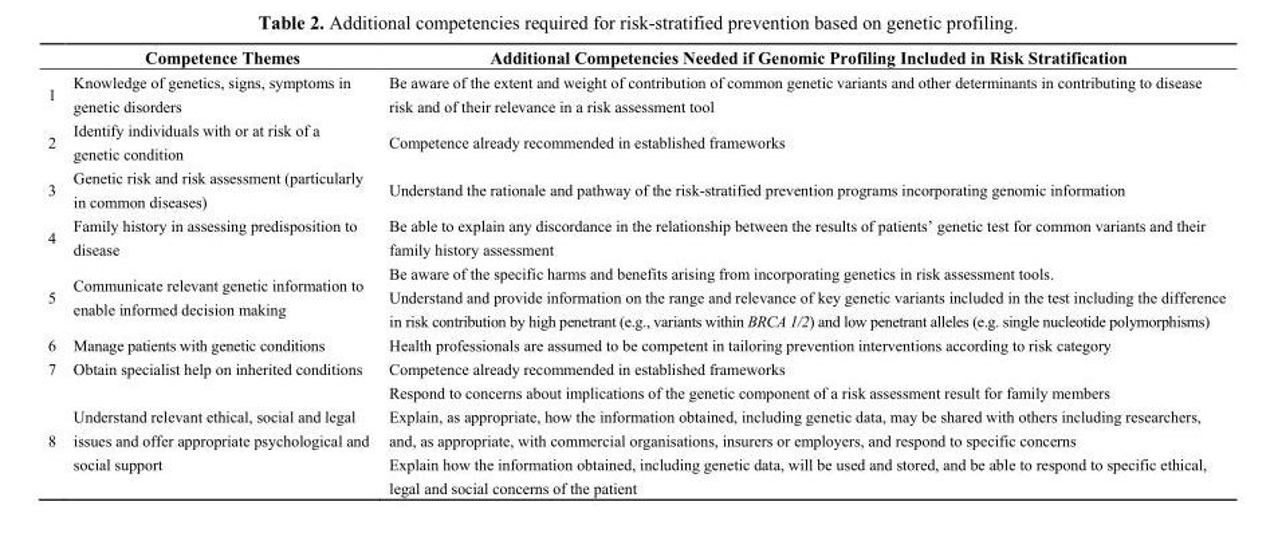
<table><thead><tr><td></td><td>Competence Themes</td><td>Additional Competencies Needed if Genomic Profiling Included in Risk Stratification</td></tr></thead><tbody><tr><td>1</td><td>Knowledge of genetics, signs, symptoms in genetic disorders</td><td>Be aware of the extent and weight of contribution of common genetic variants and other determinants in contributing to disease risk and of their relevance in a risk assessment tool</td></tr><tr><td>2</td><td>Identify individuals with or at risk of a genetic condition</td><td>Competence already recommended in established frameworks</td></tr><tr><td>3</td><td>Genetic risk and risk assessment (particularly in common diseases)</td><td>Understand the rationale and pathway of the risk-stratified prevention programs incorporating genomic information</td></tr><tr><td>4</td><td>Family history in assessing predisposition to disease</td><td>Be able to explain any discordance in the relationship between the results of patients’ genetic test for common variants and their family history assessment</td></tr><tr><td>5</td><td>Communicate relevant genetic information to enable informed decision making</td><td>Be aware of the specific harms and benefits arising from incorporating genetics in risk assessment tools. Understand and provide information on the range and relevance of key genetic variants included in the test including the difference in risk contribution by high penetrant (e.g., variants within BRCA 1/2) and low penetrant alleles (e.g. single nucleotide polymorphisms)</td></tr><tr><td>6</td><td>Manage patients with genetic conditions</td><td>Health professionals are assumed to be competent in tailoring prevention interventions according to risk category</td></tr><tr><td>7</td><td>Obtain specialist help on inherited conditions</td><td>Competence already recommended in established frameworks</td></tr><tr><td>8</td><td>Understand relevant ethical, social and legal issues and offer appropriate psychological and social support</td><td>Respond to concerns about implications of the genetic component of a risk assessment result for family members Explain, as appropriate, how the information obtained, including genetic data, may be shared with others including researchers, and, as appropriate, with commercial organisations, insurers or employers, and respond to specific concerns Explain how the information obtained, including genetic data, will be used and stored, and be able to respond to specific ethical, legal and social concerns of the patient</td></tr></tbody></table>